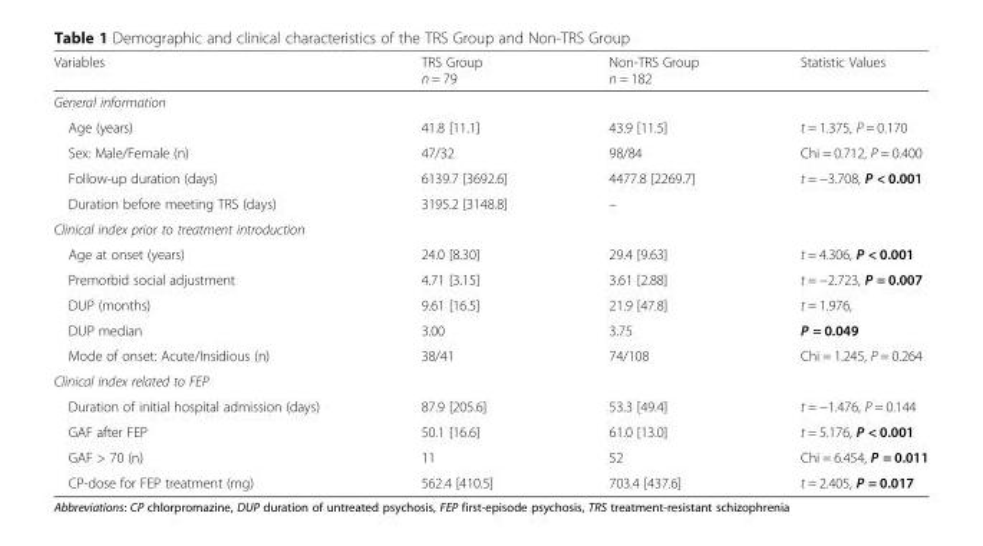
<table><thead><tr><td>Variables</td><td>TRS Group n = 79</td><td>Non-TRS Group n = 182</td><td>Statistic Values</td></tr></thead><tbody><tr><td colspan="4">General information</td></tr><tr><td>Age (years)</td><td>41.8 [11.1]</td><td>43.9 [11.5]</td><td>t = 1.375, P = 0.170</td></tr><tr><td>Sex: Male/Female (n)</td><td>47/32</td><td>98/84</td><td>Chi = 0.712, P = 0.400</td></tr><tr><td>Follow-up duration (days)</td><td>6139.7 [3692.6]</td><td>4477.8 [2269.7]</td><td>t = −3.708, P &lt; 0.001</td></tr><tr><td>Duration before meeting TRS (days)</td><td>3195.2 [3148.8]</td><td>–</td><td></td></tr><tr><td colspan="4">Clinical index prior to treatment introduction</td></tr><tr><td>Age at onset (years)</td><td>24.0 [8.30]</td><td>29.4 [9.63]</td><td>t = 4.306, P &lt; 0.001</td></tr><tr><td>Premorbid social adjustment</td><td>4.71 [3.15]</td><td>3.61 [2.88]</td><td>t = −2.723, P = 0.007</td></tr><tr><td>DUP (months)</td><td>9.61 [16.5]</td><td>21.9 [47.8]</td><td>t = 1.976,</td></tr><tr><td>DUP median</td><td>3.00</td><td>3.75</td><td>P = 0.049</td></tr><tr><td>Mode of onset: Acute/Insidious (n)</td><td>38/41</td><td>74/108</td><td>Chi = 1.245, P = 0.264</td></tr><tr><td colspan="4">Clinical index related to FEP</td></tr><tr><td>Duration of initial hospital admission (days)</td><td>87.9 [205.6]</td><td>53.3 [49.4]</td><td>t = −1.476, P = 0.144</td></tr><tr><td>GAF after FEP</td><td>50.1 [16.6]</td><td>61.0 [13.0]</td><td>t = 5.176, P &lt; 0.001</td></tr><tr><td>GAF &gt; 70 (n)</td><td>11</td><td>52</td><td>Chi = 6.454, P = 0.011</td></tr><tr><td>CP-dose for FEP treatment (mg)</td><td>562.4 [410.5]</td><td>703.4 [437.6]</td><td>t = 2.405, P = 0.017</td></tr></tbody></table>